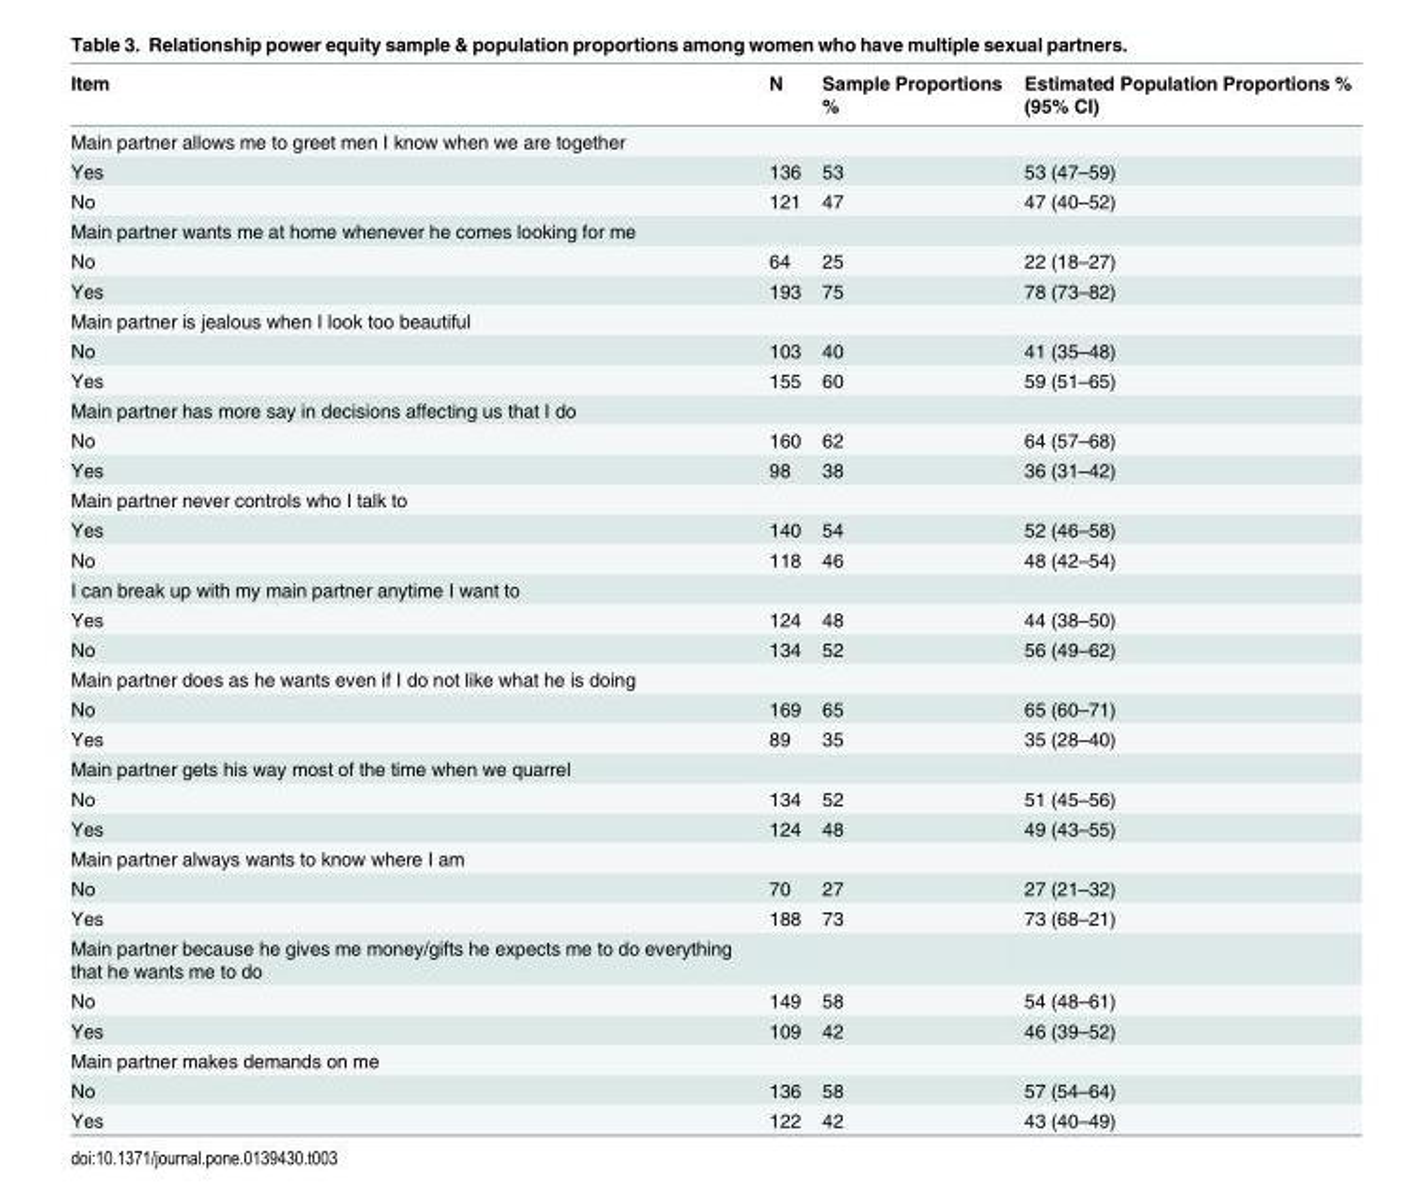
<table><thead><tr><td>Item</td><td>N</td><td>Sample Proportions %</td><td>Estimated Population Proportions % (95% CI)</td></tr></thead><tbody><tr><td colspan="4">Main partner allows me to greet men I know when we are together</td></tr><tr><td>Yes</td><td>136</td><td>53</td><td>53 (47–59)</td></tr><tr><td>No</td><td>121</td><td>47</td><td>47 (40–52)</td></tr><tr><td colspan="4">Main partner wants me at home whenever he comes looking for me</td></tr><tr><td>No</td><td>64</td><td>25</td><td>22 (18–27)</td></tr><tr><td>Yes</td><td>193</td><td>75</td><td>78 (73–82)</td></tr><tr><td colspan="4">Main partner is jealous when I look too beautiful</td></tr><tr><td>No</td><td>103</td><td>40</td><td>41 (35–48)</td></tr><tr><td>Yes</td><td>155</td><td>60</td><td>59 (51–65)</td></tr><tr><td colspan="4">Main partner has more say in decisions affecting us that I do</td></tr><tr><td>No</td><td>160</td><td>62</td><td>64 (57–68)</td></tr><tr><td>Yes</td><td>98</td><td>38</td><td>36 (31–42)</td></tr><tr><td colspan="4">Main partner never controls who I talk to</td></tr><tr><td>Yes</td><td>140</td><td>54</td><td>52 (46–58)</td></tr><tr><td>No</td><td>118</td><td>46</td><td>48 (42–54)</td></tr><tr><td colspan="4">I can break up with my main partner anytime I want to</td></tr><tr><td>Yes</td><td>124</td><td>48</td><td>44 (38–50)</td></tr><tr><td>No</td><td>134</td><td>52</td><td>56 (49–62)</td></tr><tr><td colspan="4">Main partner does as he wants even if I do not like what he is doing</td></tr><tr><td>No</td><td>169</td><td>65</td><td>65 (60–71)</td></tr><tr><td>Yes</td><td>89</td><td>35</td><td>35 (28–40)</td></tr><tr><td colspan="4">Main partner gets his way most of the time when we quarrel</td></tr><tr><td>No</td><td>134</td><td>52</td><td>51 (45–56)</td></tr><tr><td>Yes</td><td>124</td><td>48</td><td>49 (43–55)</td></tr><tr><td colspan="4">Main partner always wants to know where I am</td></tr><tr><td>No</td><td>70</td><td>27</td><td>27 (21–32)</td></tr><tr><td>Yes</td><td>188</td><td>73</td><td>73 (68–21)</td></tr><tr><td colspan="4">Main partner because he gives me money/gifts he expects me to do everything that he wants me to do</td></tr><tr><td>No</td><td>149</td><td>58</td><td>54 (48–61)</td></tr><tr><td>Yes</td><td>109</td><td>42</td><td>46 (39–52)</td></tr><tr><td colspan="4">Main partner makes demands on me</td></tr><tr><td>No</td><td>136</td><td>58</td><td>57 (54–64)</td></tr><tr><td>Yes</td><td>122</td><td>42</td><td>43 (40–49)</td></tr></tbody></table>